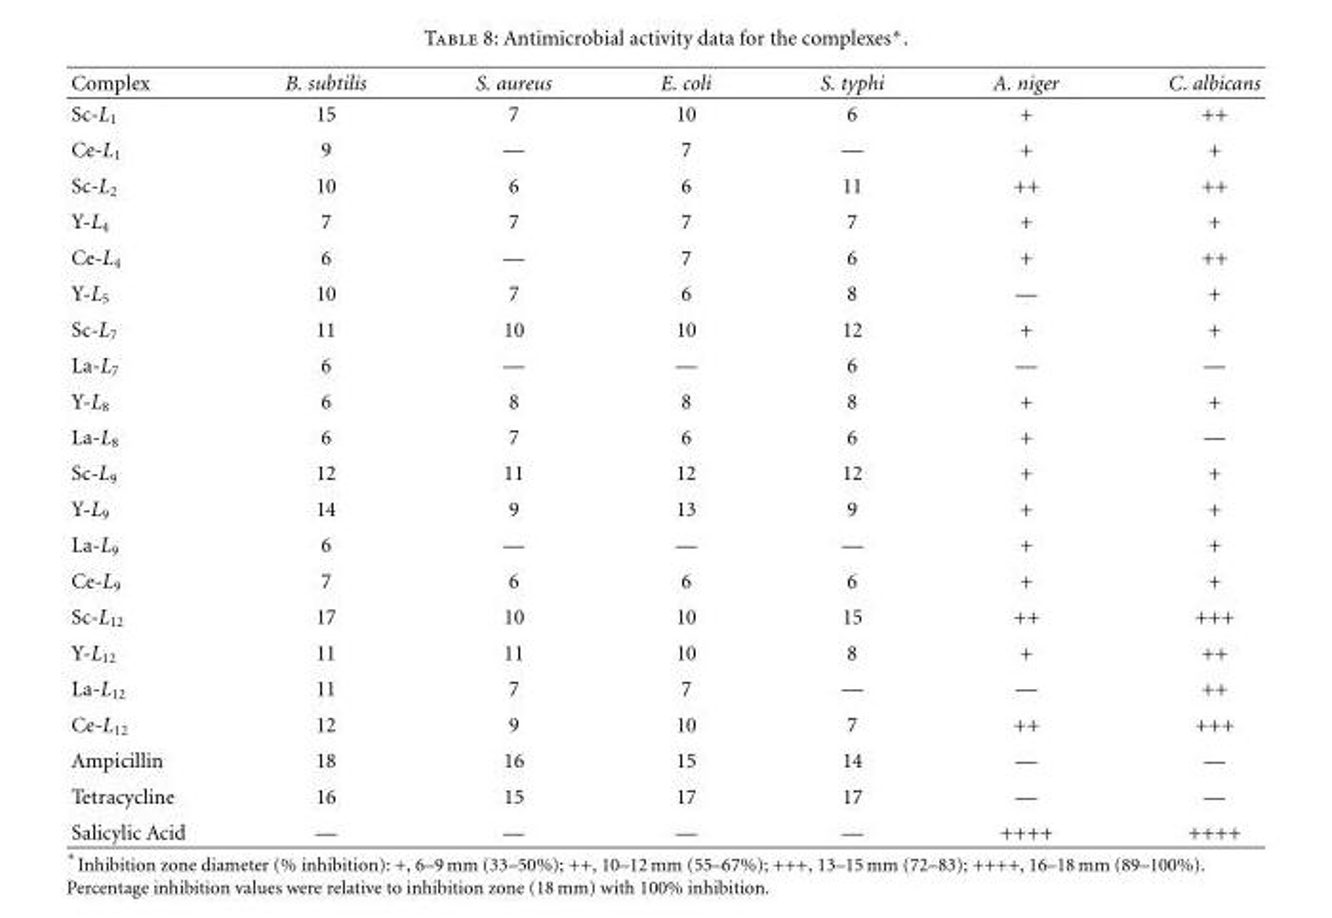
<table><thead><tr><td>Complex</td><td>B. subtilis</td><td>S. aureus</td><td>E. coli</td><td>S. typhi</td><td>A. niger</td><td>C. albicans</td></tr></thead><tbody><tr><td>Sc-L<sub>1</sub></td><td>15</td><td>7</td><td>10</td><td>6</td><td>+</td><td>++</td></tr><tr><td>Ce-L<sub>1</sub></td><td>9</td><td>—</td><td>7</td><td>—</td><td>+</td><td>+</td></tr><tr><td>Sc-L<sub>2</sub></td><td>10</td><td>6</td><td>6</td><td>11</td><td>++</td><td>++</td></tr><tr><td>Y-L<sub>4</sub></td><td>7</td><td>7</td><td>7</td><td>7</td><td>+</td><td>+</td></tr><tr><td>Ce-L<sub>4</sub></td><td>6</td><td>—</td><td>7</td><td>6</td><td>+</td><td>++</td></tr><tr><td>Y-L<sub>5</sub></td><td>10</td><td>7</td><td>6</td><td>8</td><td>—</td><td>+</td></tr><tr><td>Sc-L<sub>7</sub></td><td>11</td><td>10</td><td>10</td><td>12</td><td>+</td><td>+</td></tr><tr><td>La-L<sub>7</sub></td><td>6</td><td>—</td><td>—</td><td>6</td><td>—</td><td>—</td></tr><tr><td>Y-L<sub>8</sub></td><td>6</td><td>8</td><td>8</td><td>8</td><td>+</td><td>+</td></tr><tr><td>La-L<sub>8</sub></td><td>6</td><td>7</td><td>6</td><td>6</td><td>+</td><td>—</td></tr><tr><td>Sc-L<sub>9</sub></td><td>12</td><td>11</td><td>12</td><td>12</td><td>+</td><td>+</td></tr><tr><td>Y-L<sub>9</sub></td><td>14</td><td>9</td><td>13</td><td>9</td><td>+</td><td>+</td></tr><tr><td>La-L<sub>9</sub></td><td>6</td><td>—</td><td>—</td><td>—</td><td>+</td><td>+</td></tr><tr><td>Ce-L<sub>9</sub></td><td>7</td><td>6</td><td>6</td><td>6</td><td>+</td><td>+</td></tr><tr><td>Sc-L<sub>12</sub></td><td>17</td><td>10</td><td>10</td><td>15</td><td>++</td><td>+++</td></tr><tr><td>Y-L<sub>12</sub></td><td>11</td><td>11</td><td>10</td><td>8</td><td>+</td><td>++</td></tr><tr><td>La-L<sub>12</sub></td><td>11</td><td>7</td><td>7</td><td>—</td><td>—</td><td>++</td></tr><tr><td>Ce-L<sub>12</sub></td><td>12</td><td>9</td><td>10</td><td>7</td><td>++</td><td>+++</td></tr><tr><td>Ampicillin</td><td>18</td><td>16</td><td>15</td><td>14</td><td>—</td><td>—</td></tr><tr><td>Tetracycline</td><td>16</td><td>15</td><td>17</td><td>17</td><td>—</td><td>—</td></tr><tr><td>Salicylic Acid</td><td>—</td><td>—</td><td>—</td><td>—</td><td>++++</td><td>++++</td></tr></tbody></table>